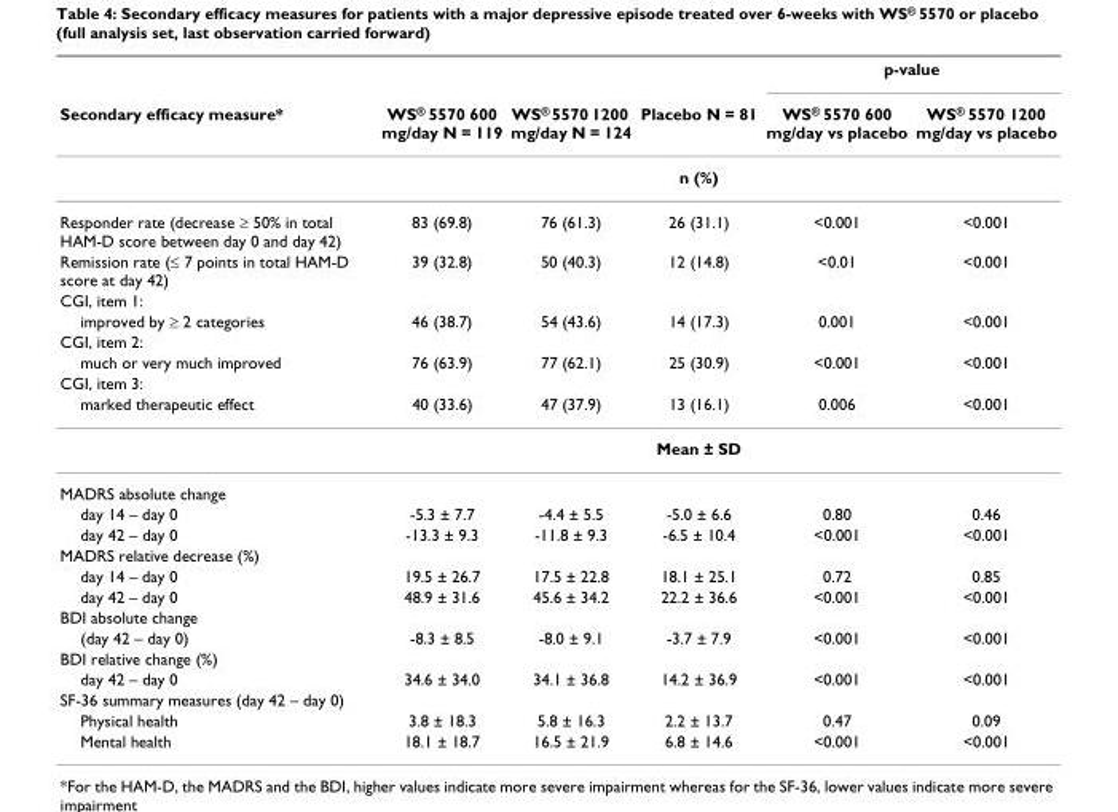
<table><thead><tr><td rowspan="2">Secondary efficacy measure*</td><td rowspan="2">WS® 5570 600 mg/day N = 119</td><td rowspan="2">WS® 5570 1200 mg/day N = 124</td><td rowspan="2">Placebo N = 81</td><td colspan="2">p-value</td></tr><tr><td>WS® 5570 600 mg/day vs placebo</td><td>WS® 5570 1200 mg/day vs placebo</td></tr></thead><tbody><tr><td></td><td></td><td></td><td>n (%)</td><td></td><td></td></tr><tr><td>Responder rate (decrease ≥ 50% in total HAM-D score between day 0 and day 42)</td><td>83 (69.8)</td><td>76 (61.3)</td><td>26 (31.1)</td><td>&lt;0.001</td><td>&lt;0.001</td></tr><tr><td>Remission rate (≤ 7 points in total HAM-D score at day 42)</td><td>39 (32.8)</td><td>50 (40.3)</td><td>12 (14.8)</td><td>&lt;0.01</td><td>&lt;0.001</td></tr><tr><td colspan="6">CGI, item 1:</td></tr><tr><td>improved by ≥ 2 categories</td><td>46 (38.7)</td><td>54 (43.6)</td><td>14 (17.3)</td><td>0.001</td><td>&lt;0.001</td></tr><tr><td colspan="6">CGI, item 2:</td></tr><tr><td>much or very much improved</td><td>76 (63.9)</td><td>77 (62.1)</td><td>25 (30.9)</td><td>&lt;0.001</td><td>&lt;0.001</td></tr><tr><td colspan="6">CGI, item 3:</td></tr><tr><td rowspan="2">marked therapeutic effect</td><td>40 (33.6)</td><td>47 (37.9)</td><td>13 (16.1)</td><td>0.006</td><td>&lt;0.001</td></tr><tr><td></td><td></td><td>Mean ± SD</td><td></td><td></td></tr><tr><td colspan="6">MADRS absolute change</td></tr><tr><td>day 14 – day 0</td><td>-5.3 ± 7.7</td><td>-4.4 ± 5.5</td><td>-5.0 ± 6.6</td><td>0.80</td><td>0.46</td></tr><tr><td>day 42 – day 0</td><td>-13.3 ± 9.3</td><td>-11.8 ± 9.3</td><td>-6.5 ± 10.4</td><td>&lt;0.001</td><td>&lt;0.001</td></tr><tr><td colspan="6">MADRS relative decrease (%)</td></tr><tr><td>day 14 – day 0</td><td>19.5 ± 26.7</td><td>17.5 ± 22.8</td><td>18.1 ± 25.1</td><td>0.72</td><td>0.85</td></tr><tr><td>day 42 – day 0</td><td>48.9 ± 31.6</td><td>45.6 ± 34.2</td><td>22.2 ± 36.6</td><td>&lt;0.001</td><td>&lt;0.001</td></tr><tr><td colspan="6">BDI absolute change</td></tr><tr><td>(day 42 – day 0)</td><td>-8.3 ± 8.5</td><td>-8.0 ± 9.1</td><td>-3.7 ± 7.9</td><td>&lt;0.001</td><td>&lt;0.001</td></tr><tr><td colspan="6">BDI relative change (%)</td></tr><tr><td>day 42 – day 0</td><td>34.6 ± 34.0</td><td>34.1 ± 36.8</td><td>14.2 ± 36.9</td><td>&lt;0.001</td><td>&lt;0.001</td></tr><tr><td colspan="6">SF-36 summary measures (day 42 – day 0)</td></tr><tr><td>Physical health</td><td>3.8 ± 18.3</td><td>5.8 ± 16.3</td><td>2.2 ± 13.7</td><td>0.47</td><td>0.09</td></tr><tr><td>Mental health</td><td>18.1 ± 18.7</td><td>16.5 ± 21.9</td><td>6.8 ± 14.6</td><td>&lt;0.001</td><td>&lt;0.001</td></tr></tbody></table>